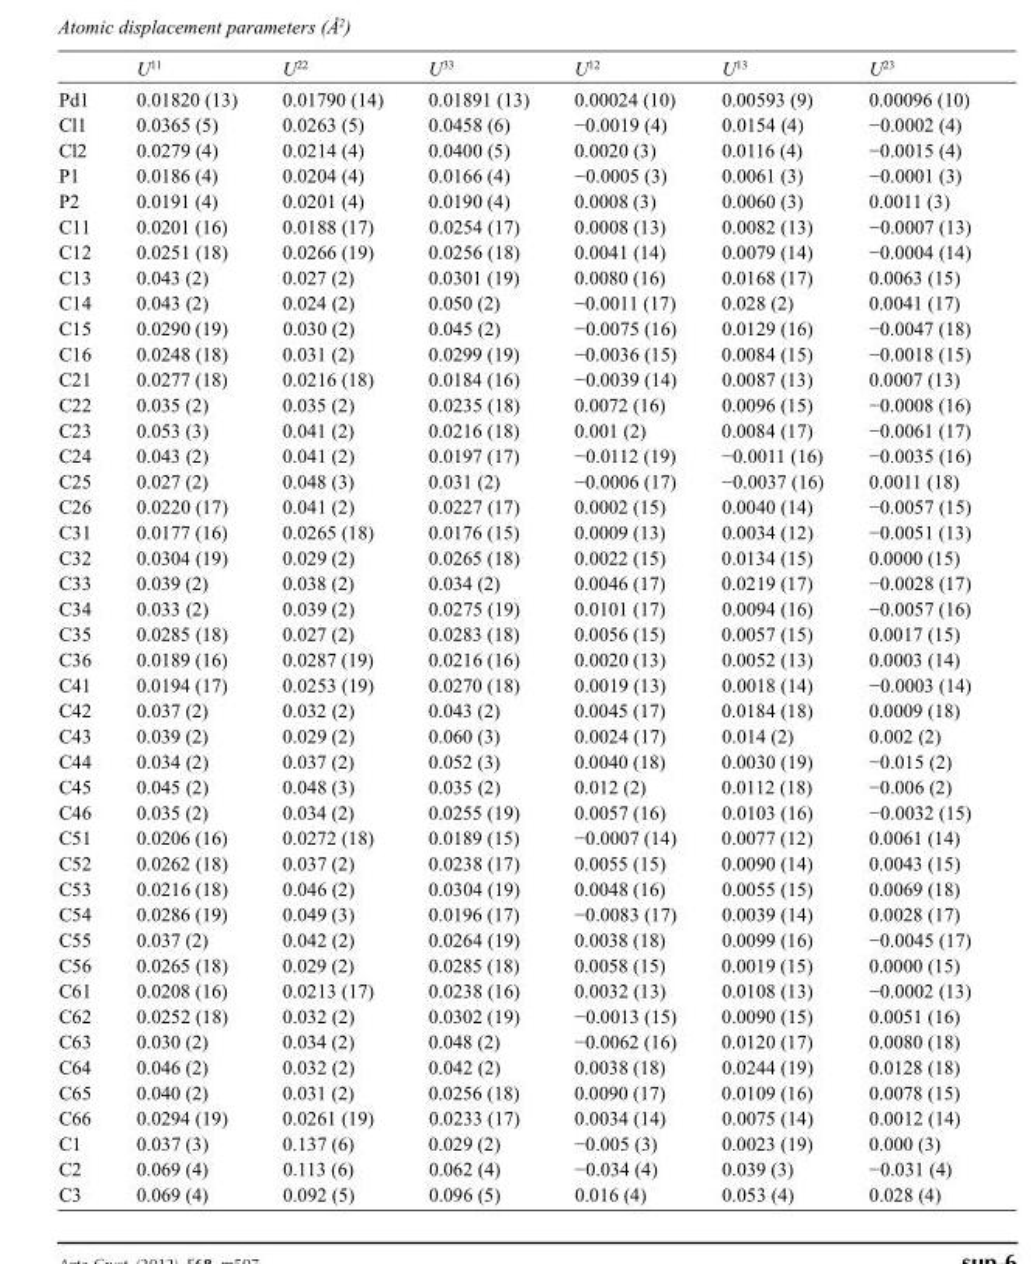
<table><thead><tr><td></td><td>U<sup>11</sup></td><td>U<sup>22</sup></td><td>U<sup>33</sup></td><td>U<sup>12</sup></td><td>U<sup>13</sup></td><td>U<sup>23</sup></td></tr></thead><tbody><tr><td>Pd1</td><td>0.01820 (13)</td><td>0.01790 (14)</td><td>0.01891 (13)</td><td>0.00024 (10)</td><td>0.00593 (9)</td><td>0.00096 (10)</td></tr><tr><td>Cl1</td><td>0.0365 (5)</td><td>0.0263 (5)</td><td>0.0458 (6)</td><td>−0.0019 (4)</td><td>0.0154 (4)</td><td>−0.0002 (4)</td></tr><tr><td>Cl2</td><td>0.0279 (4)</td><td>0.0214 (4)</td><td>0.0400 (5)</td><td>0.0020 (3)</td><td>0.0116 (4)</td><td>−0.0015 (4)</td></tr><tr><td>P1</td><td>0.0186 (4)</td><td>0.0204 (4)</td><td>0.0166 (4)</td><td>−0.0005 (3)</td><td>0.0061 (3)</td><td>−0.0001 (3)</td></tr><tr><td>P2</td><td>0.0191 (4)</td><td>0.0201 (4)</td><td>0.0190 (4)</td><td>0.0008 (3)</td><td>0.0060 (3)</td><td>0.0011 (3)</td></tr><tr><td>C11</td><td>0.0201 (16)</td><td>0.0188 (17)</td><td>0.0254 (17)</td><td>0.0008 (13)</td><td>0.0082 (13)</td><td>−0.0007 (13)</td></tr><tr><td>C12</td><td>0.0251 (18)</td><td>0.0266 (19)</td><td>0.0256 (18)</td><td>0.0041 (14)</td><td>0.0079 (14)</td><td>−0.0004 (14)</td></tr><tr><td>C13</td><td>0.043 (2)</td><td>0.027 (2)</td><td>0.0301 (19)</td><td>0.0080 (16)</td><td>0.0168 (17)</td><td>0.0063 (15)</td></tr><tr><td>C14</td><td>0.043 (2)</td><td>0.024 (2)</td><td>0.050 (2)</td><td>−0.0011 (17)</td><td>0.028 (2)</td><td>0.0041 (17)</td></tr><tr><td>C15</td><td>0.0290 (19)</td><td>0.030 (2)</td><td>0.045 (2)</td><td>−0.0075 (16)</td><td>0.0129 (16)</td><td>−0.0047 (18)</td></tr><tr><td>C16</td><td>0.0248 (18)</td><td>0.031 (2)</td><td>0.0299 (19)</td><td>−0.0036 (15)</td><td>0.0084 (15)</td><td>−0.0018 (15)</td></tr><tr><td>C21</td><td>0.0277 (18)</td><td>0.0216 (18)</td><td>0.0184 (16)</td><td>−0.0039 (14)</td><td>0.0087 (13)</td><td>0.0007 (13)</td></tr><tr><td>C22</td><td>0.035 (2)</td><td>0.035 (2)</td><td>0.0235 (18)</td><td>0.0072 (16)</td><td>0.0096 (15)</td><td>−0.0008 (16)</td></tr><tr><td>C23</td><td>0.053 (3)</td><td>0.041 (2)</td><td>0.0216 (18)</td><td>0.001 (2)</td><td>0.0084 (17)</td><td>−0.0061 (17)</td></tr><tr><td>C24</td><td>0.043 (2)</td><td>0.041 (2)</td><td>0.0197 (17)</td><td>−0.0112 (19)</td><td>−0.0011 (16)</td><td>−0.0035 (16)</td></tr><tr><td>C25</td><td>0.027 (2)</td><td>0.048 (3)</td><td>0.031 (2)</td><td>−0.0006 (17)</td><td>−0.0037 (16)</td><td>0.0011 (18)</td></tr><tr><td>C26</td><td>0.0220 (17)</td><td>0.041 (2)</td><td>0.0227 (17)</td><td>0.0002 (15)</td><td>0.0040 (14)</td><td>−0.0057 (15)</td></tr><tr><td>C31</td><td>0.0177 (16)</td><td>0.0265 (18)</td><td>0.0176 (15)</td><td>0.0009 (13)</td><td>0.0034 (12)</td><td>−0.0051 (13)</td></tr><tr><td>C32</td><td>0.0304 (19)</td><td>0.029 (2)</td><td>0.0265 (18)</td><td>0.0022 (15)</td><td>0.0134 (15)</td><td>0.0000 (15)</td></tr><tr><td>C33</td><td>0.039 (2)</td><td>0.038 (2)</td><td>0.034 (2)</td><td>0.0046 (17)</td><td>0.0219 (17)</td><td>−0.0028 (17)</td></tr><tr><td>C34</td><td>0.033 (2)</td><td>0.039 (2)</td><td>0.0275 (19)</td><td>0.0101 (17)</td><td>0.0094 (16)</td><td>−0.0057 (16)</td></tr><tr><td>C35</td><td>0.0285 (18)</td><td>0.027 (2)</td><td>0.0283 (18)</td><td>0.0056 (15)</td><td>0.0057 (15)</td><td>0.0017 (15)</td></tr><tr><td>C36</td><td>0.0189 (16)</td><td>0.0287 (19)</td><td>0.0216 (16)</td><td>0.0020 (13)</td><td>0.0052 (13)</td><td>0.0003 (14)</td></tr><tr><td>C41</td><td>0.0194 (17)</td><td>0.0253 (19)</td><td>0.0270 (18)</td><td>0.0019 (13)</td><td>0.0018 (14)</td><td>−0.0003 (14)</td></tr><tr><td>C42</td><td>0.037 (2)</td><td>0.032 (2)</td><td>0.043 (2)</td><td>0.0045 (17)</td><td>0.0184 (18)</td><td>0.0009 (18)</td></tr><tr><td>C43</td><td>0.039 (2)</td><td>0.029 (2)</td><td>0.060 (3)</td><td>0.0024 (17)</td><td>0.014 (2)</td><td>0.002 (2)</td></tr><tr><td>C44</td><td>0.034 (2)</td><td>0.037 (2)</td><td>0.052 (3)</td><td>0.0040 (18)</td><td>0.0030 (19)</td><td>−0.015 (2)</td></tr><tr><td>C45</td><td>0.045 (2)</td><td>0.048 (3)</td><td>0.035 (2)</td><td>0.012 (2)</td><td>0.0112 (18)</td><td>−0.006 (2)</td></tr><tr><td>C46</td><td>0.035 (2)</td><td>0.034 (2)</td><td>0.0255 (19)</td><td>0.0057 (16)</td><td>0.0103 (16)</td><td>−0.0032 (15)</td></tr><tr><td>C51</td><td>0.0206 (16)</td><td>0.0272 (18)</td><td>0.0189 (15)</td><td>−0.0007 (14)</td><td>0.0077 (12)</td><td>0.0061 (14)</td></tr><tr><td>C52</td><td>0.0262 (18)</td><td>0.037 (2)</td><td>0.0238 (17)</td><td>0.0055 (15)</td><td>0.0090 (14)</td><td>0.0043 (15)</td></tr><tr><td>C53</td><td>0.0216 (18)</td><td>0.046 (2)</td><td>0.0304 (19)</td><td>0.0048 (16)</td><td>0.0055 (15)</td><td>0.0069 (18)</td></tr><tr><td>C54</td><td>0.0286 (19)</td><td>0.049 (3)</td><td>0.0196 (17)</td><td>−0.0083 (17)</td><td>0.0039 (14)</td><td>0.0028 (17)</td></tr><tr><td>C55</td><td>0.037 (2)</td><td>0.042 (2)</td><td>0.0264 (19)</td><td>0.0038 (18)</td><td>0.0099 (16)</td><td>−0.0045 (17)</td></tr><tr><td>C56</td><td>0.0265 (18)</td><td>0.029 (2)</td><td>0.0285 (18)</td><td>0.0058 (15)</td><td>0.0019 (15)</td><td>0.0000 (15)</td></tr><tr><td>C61</td><td>0.0208 (16)</td><td>0.0213 (17)</td><td>0.0238 (16)</td><td>0.0032 (13)</td><td>0.0108 (13)</td><td>−0.0002 (13)</td></tr><tr><td>C62</td><td>0.0252 (18)</td><td>0.032 (2)</td><td>0.0302 (19)</td><td>−0.0013 (15)</td><td>0.0090 (15)</td><td>0.0051 (16)</td></tr><tr><td>C63</td><td>0.030 (2)</td><td>0.034 (2)</td><td>0.048 (2)</td><td>−0.0062 (16)</td><td>0.0120 (17)</td><td>0.0080 (18)</td></tr><tr><td>C64</td><td>0.046 (2)</td><td>0.032 (2)</td><td>0.042 (2)</td><td>0.0038 (18)</td><td>0.0244 (19)</td><td>0.0128 (18)</td></tr><tr><td>C65</td><td>0.040 (2)</td><td>0.031 (2)</td><td>0.0256 (18)</td><td>0.0090 (17)</td><td>0.0109 (16)</td><td>0.0078 (15)</td></tr><tr><td>C66</td><td>0.0294 (19)</td><td>0.0261 (19)</td><td>0.0233 (17)</td><td>0.0034 (14)</td><td>0.0075 (14)</td><td>0.0012 (14)</td></tr><tr><td>C1</td><td>0.037 (3)</td><td>0.137 (6)</td><td>0.029 (2)</td><td>−0.005 (3)</td><td>0.0023 (19)</td><td>0.000 (3)</td></tr><tr><td>C2</td><td>0.069 (4)</td><td>0.113 (6)</td><td>0.062 (4)</td><td>−0.034 (4)</td><td>0.039 (3)</td><td>−0.031 (4)</td></tr><tr><td>C3</td><td>0.069 (4)</td><td>0.092 (5)</td><td>0.096 (5)</td><td>0.016 (4)</td><td>0.053 (4)</td><td>0.028 (4)</td></tr></tbody></table>